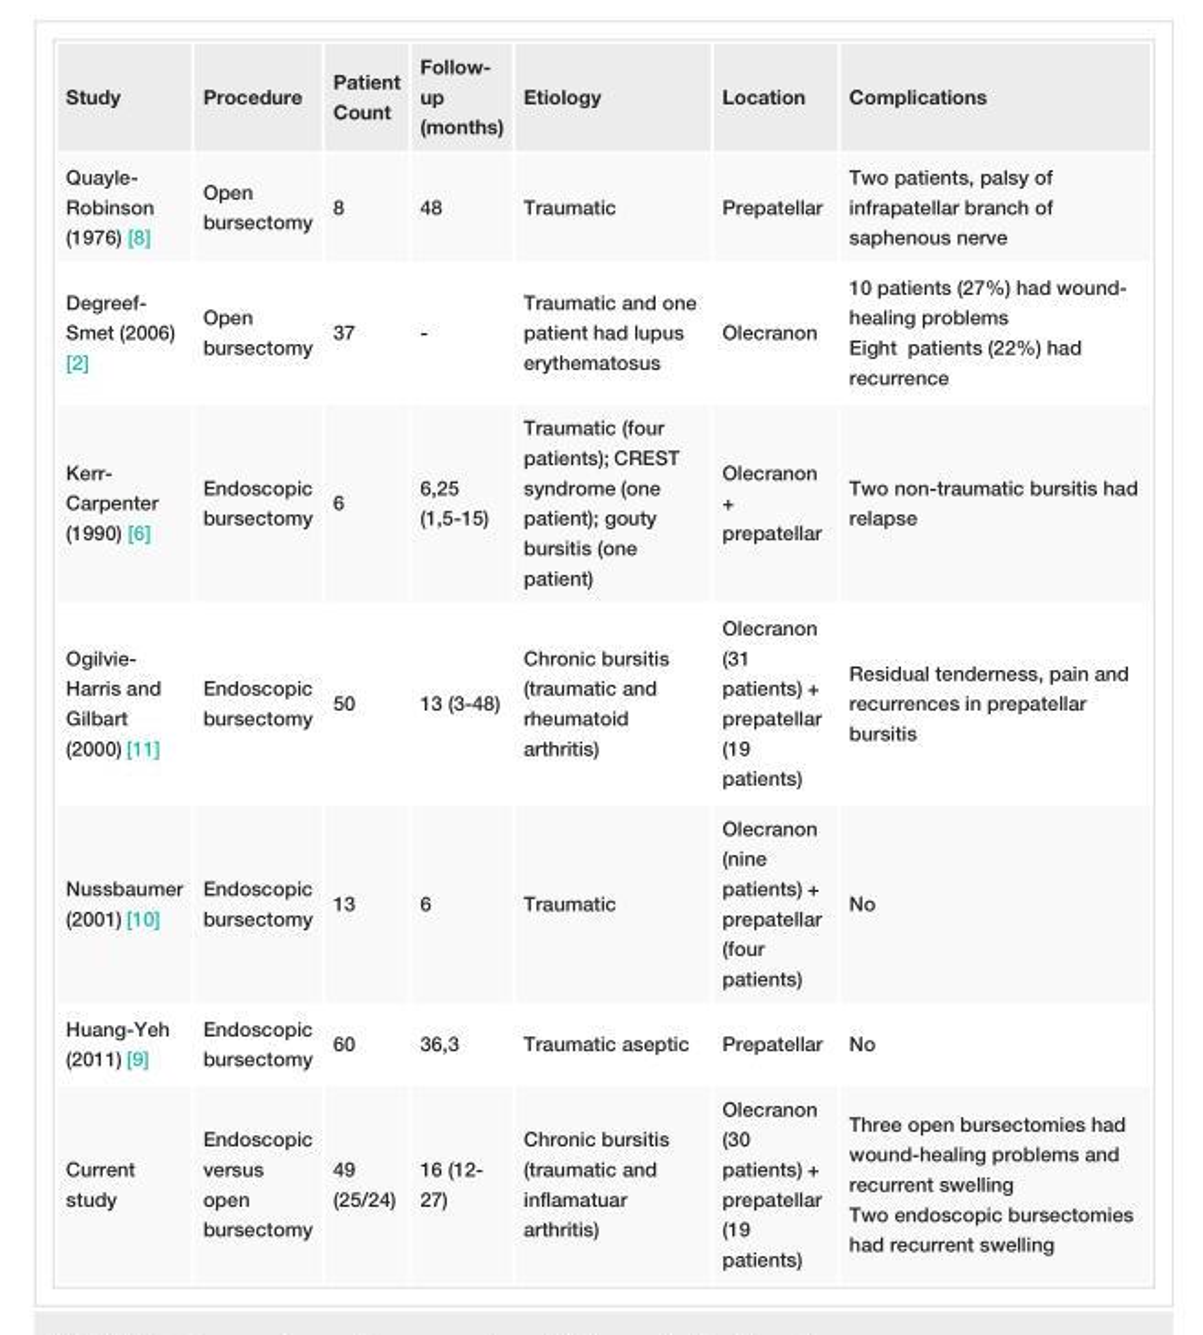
<table><tbody><tr><td>Study</td><td>Procedure</td><td>Patient Count</td><td>Follow- up (months)</td><td>Etiology</td><td>Location</td><td>Complications</td></tr><tr><td>Quayle- Robinson (1976) [8]</td><td>Open bursectomy</td><td>8</td><td>48</td><td>Traumatic</td><td>Prepatellar</td><td>Two patients, palsy of infrapatellar branch of saphenous nerve</td></tr><tr><td>Degreef- Smet (2006) [2]</td><td>Open bursectomy</td><td>37</td><td>-</td><td>Traumatic and one patient had lupus erythematosus</td><td>Olecranon</td><td>10 patients (27%) had wound- healing problems Eight patients (22%) had recurrence</td></tr><tr><td>Kerr- Carpenter (1990) [6]</td><td>Endoscopic bursectomy</td><td>6</td><td>6,25 (1,5-15)</td><td>Traumatic (four patients); CREST syndrome (one patient); gouty bursitis (one patient)</td><td>Olecranon + prepatellar</td><td>Two non-traumatic bursitis had relapse</td></tr><tr><td>Ogilvie- Harris and Gilbart (2000) [11]</td><td>Endoscopic bursectomy</td><td>50</td><td>13 (3-48)</td><td>Chronic bursitis (traumatic and rheumatoid arthritis)</td><td>Olecranon (31 patients) + prepatellar (19 patients)</td><td>Residual tenderness, pain and recurrences in prepatellar bursitis</td></tr><tr><td>Nussbaumer (2001) [10]</td><td>Endoscopic bursectomy</td><td>13</td><td>6</td><td>Traumatic</td><td>Olecranon (nine patients) + prepatellar (four patients)</td><td>No</td></tr><tr><td>Huang-Yeh (2011) [9]</td><td>Endoscopic bursectomy</td><td>60</td><td>36,3</td><td>Traumatic aseptic</td><td>Prepatellar</td><td>No</td></tr><tr><td>Current study</td><td>Endoscopic versus open bursectomy</td><td>49 (25/24)</td><td>16 (12- 27)</td><td>Chronic bursitis (traumatic and inflamatuar arthritis)</td><td>Olecranon (30 patients) + prepatellar (19 patients)</td><td>Three open bursectomies had wound-healing problems and recurrent swelling Two endoscopic bursectomies had recurrent swelling</td></tr></tbody></table>